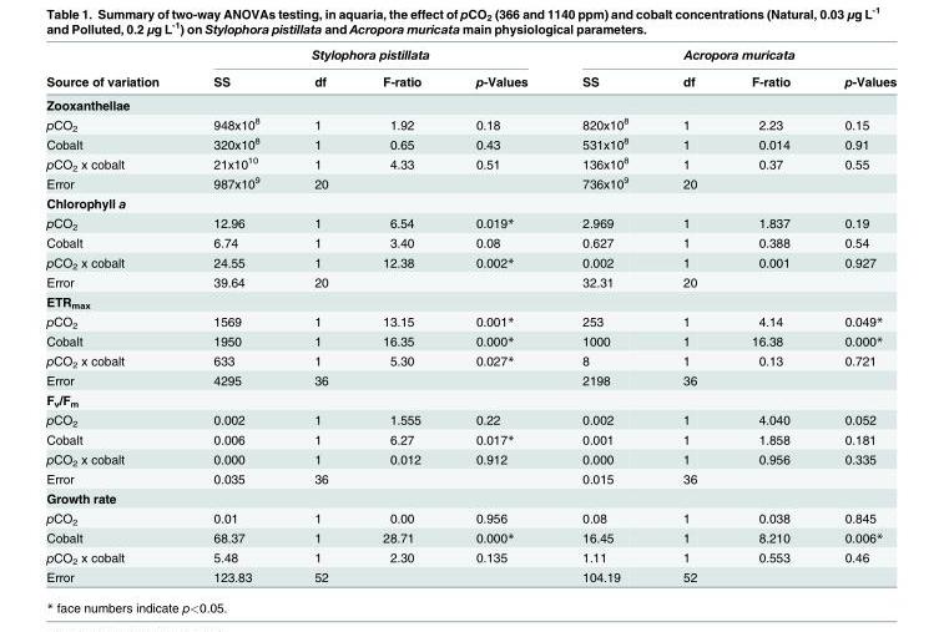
<table><thead><tr><td rowspan="2">Source of variation</td><td colspan="4">Stylophora pistillata</td><td colspan="4">Acropora muricata</td></tr><tr><td>SS</td><td>df</td><td>F-ratio</td><td>p-Values</td><td>SS</td><td>df</td><td>F-ratio</td><td>p-Values</td></tr></thead><tbody><tr><td colspan="9">Zooxanthellae</td></tr><tr><td>pCO<sub>2</sub></td><td>948x10<sup>8</sup></td><td>1</td><td>1.92</td><td>0.18</td><td>820x10<sup>8</sup></td><td>1</td><td>2.23</td><td>0.15</td></tr><tr><td>Cobalt</td><td>320x10<sup>8</sup></td><td>1</td><td>0.65</td><td>0.43</td><td>531x10<sup>8</sup></td><td>1</td><td>0.014</td><td>0.91</td></tr><tr><td>pCO<sub>2</sub> x cobalt</td><td>21x10<sup>10</sup></td><td>1</td><td>4.33</td><td>0.51</td><td>136x10<sup>8</sup></td><td>1</td><td>0.37</td><td>0.55</td></tr><tr><td>Error</td><td>987x10<sup>9</sup></td><td>20</td><td></td><td></td><td>736x10<sup>9</sup></td><td>20</td><td></td><td></td></tr><tr><td colspan="9">Chlorophyll a</td></tr><tr><td>pCO<sub>2</sub></td><td>12.96</td><td>1</td><td>6.54</td><td>0.019*</td><td>2.969</td><td>1</td><td>1.837</td><td>0.19</td></tr><tr><td>Cobalt</td><td>6.74</td><td>1</td><td>3.40</td><td>0.08</td><td>0.627</td><td>1</td><td>0.388</td><td>0.54</td></tr><tr><td>pCO<sub>2</sub> x cobalt</td><td>24.55</td><td>1</td><td>12.38</td><td>0.002*</td><td>0.002</td><td>1</td><td>0.001</td><td>0.927</td></tr><tr><td>Error</td><td>39.64</td><td>20</td><td></td><td></td><td>32.31</td><td>20</td><td></td><td></td></tr><tr><td colspan="9">ETR<sub>max</sub></td></tr><tr><td>pCO<sub>2</sub></td><td>1569</td><td>1</td><td>13.15</td><td>0.001*</td><td>253</td><td>1</td><td>4.14</td><td>0.049*</td></tr><tr><td>Cobalt</td><td>1950</td><td>1</td><td>16.35</td><td>0.000*</td><td>1000</td><td>1</td><td>16.38</td><td>0.000*</td></tr><tr><td>pCO<sub>2</sub> x cobalt</td><td>633</td><td>1</td><td>5.30</td><td>0.027*</td><td>8</td><td>1</td><td>0.13</td><td>0.721</td></tr><tr><td>Error</td><td>4295</td><td>36</td><td></td><td></td><td>2198</td><td>36</td><td></td><td></td></tr><tr><td colspan="9">F<sub>v</sub>/F<sub>m</sub></td></tr><tr><td>pCO<sub>2</sub></td><td>0.002</td><td>1</td><td>1.555</td><td>0.22</td><td>0.002</td><td>1</td><td>4.040</td><td>0.052</td></tr><tr><td>Cobalt</td><td>0.006</td><td>1</td><td>6.27</td><td>0.017*</td><td>0.001</td><td>1</td><td>1.858</td><td>0.181</td></tr><tr><td>pCO<sub>2</sub> x cobalt</td><td>0.000</td><td>1</td><td>0.012</td><td>0.912</td><td>0.000</td><td>1</td><td>0.956</td><td>0.335</td></tr><tr><td>Error</td><td>0.035</td><td>36</td><td></td><td></td><td>0.015</td><td>36</td><td></td><td></td></tr><tr><td colspan="9">Growth rate</td></tr><tr><td>pCO<sub>2</sub></td><td>0.01</td><td>1</td><td>0.00</td><td>0.956</td><td>0.08</td><td>1</td><td>0.038</td><td>0.845</td></tr><tr><td>Cobalt</td><td>68.37</td><td>1</td><td>28.71</td><td>0.000*</td><td>16.45</td><td>1</td><td>8.210</td><td>0.006*</td></tr><tr><td>pCO<sub>2</sub> x cobalt</td><td>5.48</td><td>1</td><td>2.30</td><td>0.135</td><td>1.11</td><td>1</td><td>0.553</td><td>0.46</td></tr><tr><td>Error</td><td>123.83</td><td>52</td><td></td><td></td><td>104.19</td><td>52</td><td></td><td></td></tr></tbody></table>